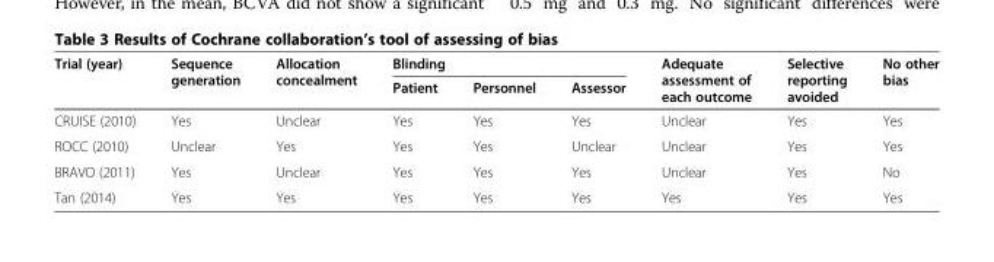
<table><thead><tr><td rowspan="2">Trial (year)</td><td rowspan="2">Sequence generation</td><td rowspan="2">Allocation concealment</td><td colspan="3">Blinding</td><td rowspan="2">Adequate assessment of each outcome</td><td rowspan="2">Selective reporting avoided</td><td rowspan="2">No other bias</td></tr><tr><td>Patient</td><td>Personnel</td><td>Assessor</td></tr></thead><tbody><tr><td>CRUISE (2010)</td><td>Yes</td><td>Unclear</td><td>Yes</td><td>Yes</td><td>Yes</td><td>Unclear</td><td>Yes</td><td>Yes</td></tr><tr><td>ROCC (2010)</td><td>Unclear</td><td>Yes</td><td>Yes</td><td>Yes</td><td>Unclear</td><td>Unclear</td><td>Yes</td><td>Yes</td></tr><tr><td>BRAVO (2011)</td><td>Yes</td><td>Unclear</td><td>Yes</td><td>Yes</td><td>Yes</td><td>Unclear</td><td>Yes</td><td>No</td></tr><tr><td>Tan (2014)</td><td>Yes</td><td>Yes</td><td>Yes</td><td>Yes</td><td>Yes</td><td>Yes</td><td>Yes</td><td>Yes</td></tr></tbody></table>